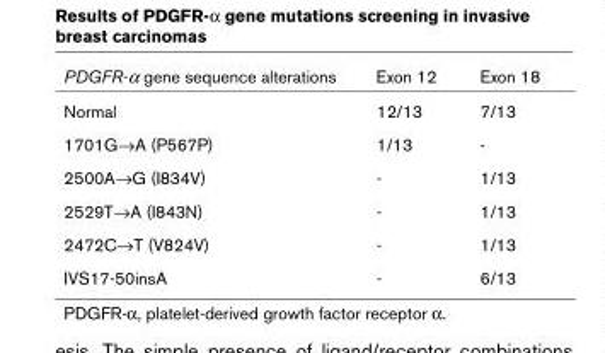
<table><thead><tr><td>PDGFR-α gene sequence alterations</td><td>Exon 12</td><td>Exon 18</td></tr></thead><tbody><tr><td>Normal</td><td>12/13</td><td>7/13</td></tr><tr><td>1701G→A (P567P)</td><td>1/13</td><td>-</td></tr><tr><td>2500A→G (I834V)</td><td>-</td><td>1/13</td></tr><tr><td>2529T→A (I843N)</td><td>-</td><td>1/13</td></tr><tr><td>2472C→T (V824V)</td><td>-</td><td>1/13</td></tr><tr><td>IVS17-50insA</td><td>-</td><td>6/13</td></tr></tbody></table>